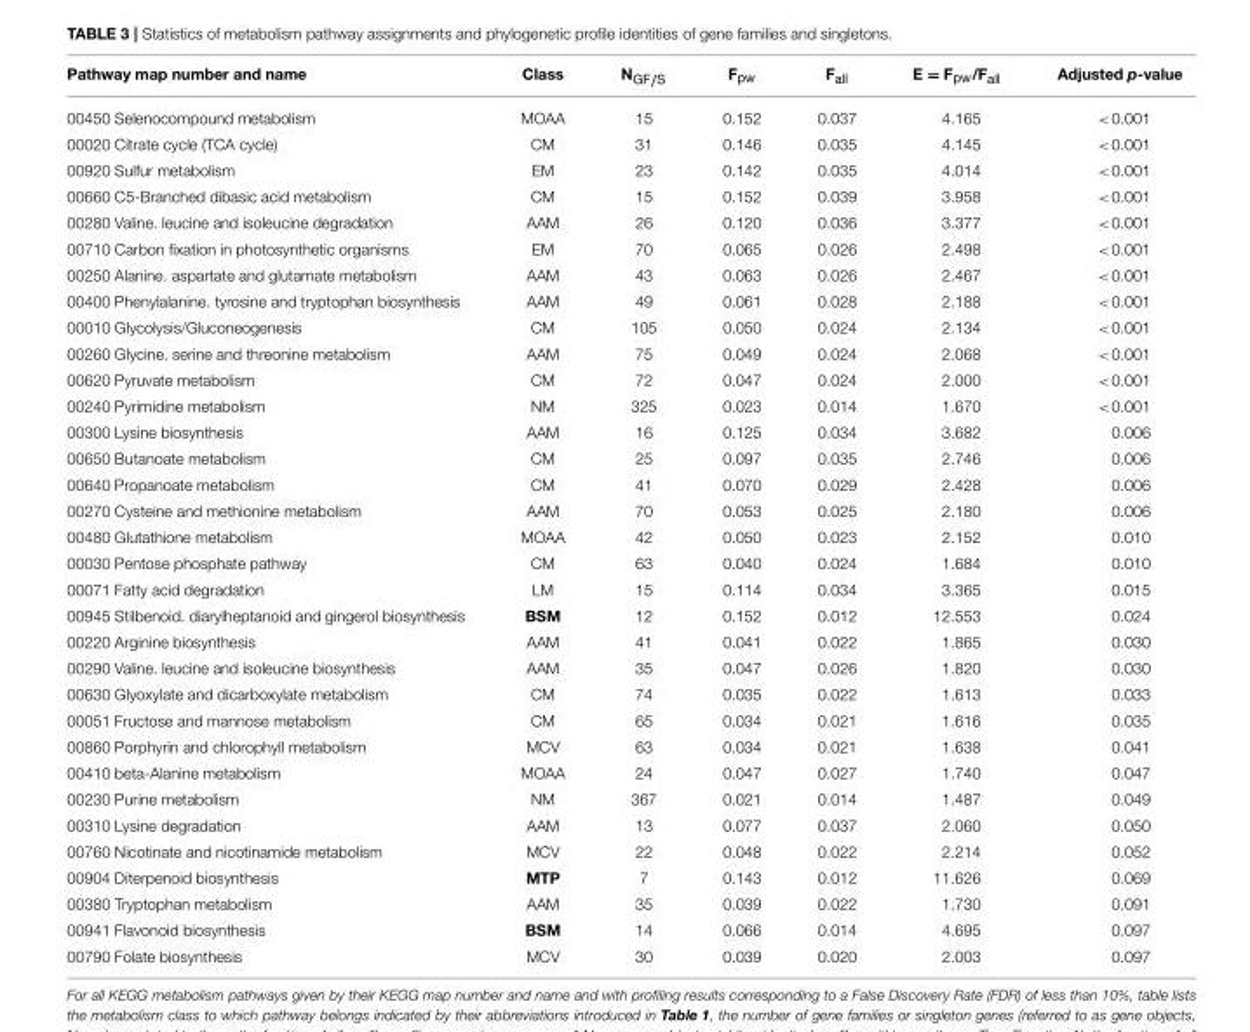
<table><thead><tr><td>Pathway map number and name</td><td>Class</td><td>N<sub>GF/S</sub></td><td>F<sub>pw</sub></td><td>F<sub>all</sub></td><td>E = F<sub>pw</sub>/F<sub>all</sub></td><td>Adjusted p-value</td></tr></thead><tbody><tr><td>00450 Selenocompound metabolism</td><td>MOAA</td><td>15</td><td>0.152</td><td>0.037</td><td>4.165</td><td>&lt;0.001</td></tr><tr><td>00020 Citrate cycle (TCA cycle)</td><td>CM</td><td>31</td><td>0.146</td><td>0.035</td><td>4.145</td><td>&lt;0.001</td></tr><tr><td>00920 Sulfur metabolism</td><td>EM</td><td>23</td><td>0.142</td><td>0.035</td><td>4.014</td><td>&lt;0.001</td></tr><tr><td>00660 C5-Branched dibasic acid metabolism</td><td>CM</td><td>15</td><td>0.152</td><td>0.039</td><td>3.958</td><td>&lt;0.001</td></tr><tr><td>00280 Valine. leucine and isoleucine degradation</td><td>AAM</td><td>26</td><td>0.120</td><td>0.036</td><td>3.377</td><td>&lt;0.001</td></tr><tr><td>00710 Carbon fixation in photosynthetic organisms</td><td>EM</td><td>70</td><td>0.065</td><td>0.026</td><td>2.498</td><td>&lt;0.001</td></tr><tr><td>00250 Alanine. aspartate and glutamate metabolism</td><td>AAM</td><td>43</td><td>0.063</td><td>0.026</td><td>2.467</td><td>&lt;0.001</td></tr><tr><td>00400 Phenylalanine. tyrosine and tryptophan biosynthesis</td><td>AAM</td><td>49</td><td>0.061</td><td>0.028</td><td>2.188</td><td>&lt;0.001</td></tr><tr><td>00010 Glycolysis/Gluconeogenesis</td><td>CM</td><td>105</td><td>0.050</td><td>0.024</td><td>2.134</td><td>&lt;0.001</td></tr><tr><td>00260 Glycine. serine and threonine metabolism</td><td>AAM</td><td>75</td><td>0.049</td><td>0.024</td><td>2.068</td><td>&lt;0.001</td></tr><tr><td>00620 Pyruvate metabolism</td><td>CM</td><td>72</td><td>0.047</td><td>0.024</td><td>2.000</td><td>&lt;0.001</td></tr><tr><td>00240 Pyrimidine metabolism</td><td>NM</td><td>325</td><td>0.023</td><td>0.014</td><td>1.670</td><td>&lt;0.001</td></tr><tr><td>00300 Lysine biosynthesis</td><td>AAM</td><td>16</td><td>0.125</td><td>0.034</td><td>3.682</td><td>0.006</td></tr><tr><td>00650 Butanoate metabolism</td><td>CM</td><td>25</td><td>0.097</td><td>0.035</td><td>2.746</td><td>0.006</td></tr><tr><td>00640 Propanoate metabolism</td><td>CM</td><td>41</td><td>0.070</td><td>0.029</td><td>2.428</td><td>0.006</td></tr><tr><td>00270 Cysteine and methionine metabolism</td><td>AAM</td><td>70</td><td>0.053</td><td>0.025</td><td>2.180</td><td>0.006</td></tr><tr><td>00480 Glutathione metabolism</td><td>MOAA</td><td>42</td><td>0.050</td><td>0.023</td><td>2.152</td><td>0.010</td></tr><tr><td>00030 Pentose phosphate pathway</td><td>CM</td><td>63</td><td>0.040</td><td>0.024</td><td>1.684</td><td>0.010</td></tr><tr><td>00071 Fatty acid degradation</td><td>LM</td><td>15</td><td>0.114</td><td>0.034</td><td>3.365</td><td>0.015</td></tr><tr><td>00945 Stilbenoid. diarylheptanoid and gingerol biosynthesis</td><td>BSM</td><td>12</td><td>0.152</td><td>0.012</td><td>12.553</td><td>0.024</td></tr><tr><td>00220 Arginine biosynthesis</td><td>AAM</td><td>41</td><td>0.041</td><td>0.022</td><td>1.865</td><td>0.030</td></tr><tr><td>00290 Valine. leucine and isoleucine biosynthesis</td><td>AAM</td><td>35</td><td>0.047</td><td>0.026</td><td>1.820</td><td>0.030</td></tr><tr><td>00630 Glyoxylate and dicarboxylate metabolism</td><td>CM</td><td>74</td><td>0.035</td><td>0.022</td><td>1.613</td><td>0.033</td></tr><tr><td>00051 Fructose and mannose metabolism</td><td>CM</td><td>65</td><td>0.034</td><td>0.021</td><td>1.616</td><td>0.035</td></tr><tr><td>00860 Porphyrin and chlorophyll metabolism</td><td>MCV</td><td>63</td><td>0.034</td><td>0.021</td><td>1.638</td><td>0.041</td></tr><tr><td>00410 beta-Alanine metabolism</td><td>MOAA</td><td>24</td><td>0.047</td><td>0.027</td><td>1.740</td><td>0.047</td></tr><tr><td>00230 Purine metabolism</td><td>NM</td><td>367</td><td>0.021</td><td>0.014</td><td>1.487</td><td>0.049</td></tr><tr><td>00310 Lysine degradation</td><td>AAM</td><td>13</td><td>0.077</td><td>0.037</td><td>2.060</td><td>0.050</td></tr><tr><td>00760 Nicotinate and nicotinamide metabolism</td><td>MCV</td><td>22</td><td>0.048</td><td>0.022</td><td>2.214</td><td>0.052</td></tr><tr><td>00904 Diterpenoid biosynthesis</td><td>MTP</td><td>7</td><td>0.143</td><td>0.012</td><td>11.626</td><td>0.069</td></tr><tr><td>00380 Tryptophan metabolism</td><td>AAM</td><td>35</td><td>0.039</td><td>0.022</td><td>1.730</td><td>0.091</td></tr><tr><td>00941 Flavonoid biosynthesis</td><td>BSM</td><td>14</td><td>0.066</td><td>0.014</td><td>4.695</td><td>0.097</td></tr><tr><td>00790 Folate biosynthesis</td><td>MCV</td><td>30</td><td>0.039</td><td>0.020</td><td>2.003</td><td>0.097</td></tr></tbody></table>